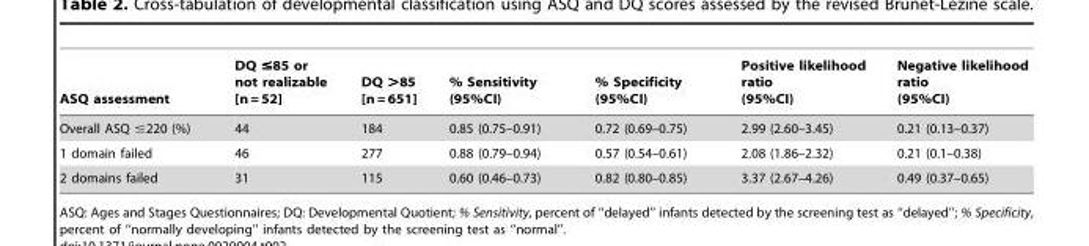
<table><thead><tr><td>ASQ assessment</td><td>DQ ≤85 or not realizable [n = 52]</td><td>DQ &gt;85 [n = 651]</td><td>% Sensitivity (95%CI)</td><td>% Specificity (95%CI)</td><td>Positive likelihood ratio (95%CI)</td><td>Negative likelihood ratio (95%CI)</td></tr></thead><tbody><tr><td>Overall ASQ ≤220 (%)</td><td>44</td><td>184</td><td>0.85 (0.75–0.91)</td><td>0.72 (0.69–0.75)</td><td>2.99 (2.60–3.45)</td><td>0.21 (0.13–0.37)</td></tr><tr><td>1 domain failed</td><td>46</td><td>277</td><td>0.88 (0.79–0.94)</td><td>0.57 (0.54–0.61)</td><td>2.08 (1.86–2.32)</td><td>0.21 (0.1–0.38)</td></tr><tr><td>2 domains failed</td><td>31</td><td>115</td><td>0.60 (0.46–0.73)</td><td>0.82 (0.80–0.85)</td><td>3.37 (2.67–4.26)</td><td>0.49 (0.37–0.65)</td></tr></tbody></table>